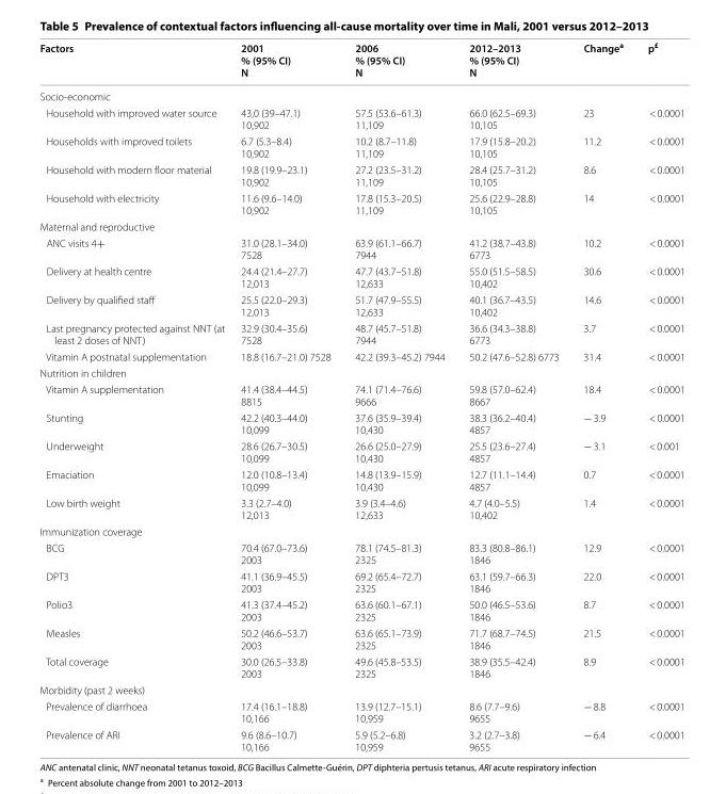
<table><thead><tr><td>Factors</td><td>2001 % (95% CI) N</td><td>2006 % (95% CI) N</td><td>2012–2013 % (95% CI) N</td><td>Change<sup>a</sup></td><td>p<sup>£</sup></td></tr></thead><tbody><tr><td colspan="6">Socio-economic</td></tr><tr><td>Household with improved water source</td><td>43,0 (39–47.1) 10,902</td><td>57.5 (53.6–61.3) 11,109</td><td>66.0 (62.5–69.3) 10,105</td><td>23</td><td>&lt; 0.0001</td></tr><tr><td>Households with improved toilets</td><td>6.7 (5.3–8.4) 10,902</td><td>10.2 (8.7–11.8) 11,109</td><td>17.9 (15.8–20.2) 10,105</td><td>11.2</td><td>&lt; 0.0001</td></tr><tr><td>Household with modern floor material</td><td>19.8 (19.9–23.1) 10,902</td><td>27.2 (23.5–31.2) 11,109</td><td>28.4 (25.7–31.2) 10,105</td><td>8.6</td><td>&lt; 0.0001</td></tr><tr><td>Household with electricity</td><td>11.6 (9.6–14.0) 10,902</td><td>17.8 (15.3–20.5) 11,109</td><td>25.6 (22.9–28.8) 10,105</td><td>14</td><td>&lt; 0.0001</td></tr><tr><td colspan="6">Maternal and reproductive</td></tr><tr><td>ANC visits 4+</td><td>31.0 (28.1–34.0) 7528</td><td>63.9 (61.1–66.7) 7944</td><td>41.2 (38.7–43.8) 6773</td><td>10.2</td><td>&lt; 0.0001</td></tr><tr><td>Delivery at health centre</td><td>24.4 (21.4–27.7) 12,013</td><td>47.7 (43.7–51.8) 12,633</td><td>55.0 (51.5–58.5) 10,402</td><td>30.6</td><td>&lt; 0.0001</td></tr><tr><td>Delivery by qualified staff</td><td>25.5 (22.0–29.3) 12,013</td><td>51.7 (47.9–55.5) 12,633</td><td>40.1 (36.7–43.5) 10,402</td><td>14.6</td><td>&lt; 0.0001</td></tr><tr><td>Last pregnancy protected against NNT (at least 2 doses of NNT)</td><td>32.9 (30.4–35.6) 7528</td><td>48.7 (45.7–51.8) 7944</td><td>36.6 (34.3–38.8) 6773</td><td>3.7</td><td>&lt; 0.0001</td></tr><tr><td>Vitamin A postnatal supplementation</td><td>18.8 (16.7–21.0) 7528</td><td>42.2 (39.3–45.2) 7944</td><td>50.2 (47.6–52.8) 6773</td><td>31.4</td><td>&lt; 0.0001</td></tr><tr><td colspan="6">Nutrition in children</td></tr><tr><td>Vitamin A supplementation</td><td>41.4 (38.4–44.5) 8815</td><td>74.1 (71.4–76.6) 9666</td><td>59.8 (57.0–62.4) 8667</td><td>18.4</td><td>&lt; 0.0001</td></tr><tr><td>Stunting</td><td>42.2 (40.3–44.0) 10,099</td><td>37.6 (35.9–39.4) 10,430</td><td>38.3 (36.2–40.4) 4857</td><td>− 3.9</td><td>&lt; 0.0001</td></tr><tr><td>Underweight</td><td>28.6 (26.7–30.5) 10,099</td><td>26.6 (25.0–27.9) 10,430</td><td>25.5 (23.6–27.4) 4857</td><td>− 3.1</td><td>&lt; 0.001</td></tr><tr><td>Emaciation</td><td>12.0 (10.8–13.4) 10,099</td><td>14.8 (13.9–15.9) 10,430</td><td>12.7 (11.1–14.4) 4857</td><td>0.7</td><td>&lt; 0.0001</td></tr><tr><td>Low birth weight</td><td>3.3 (2.7–4.0) 12,013</td><td>3.9 (3.4–4.6) 12,633</td><td>4.7 (4.0–5.5) 10,402</td><td>1.4</td><td>&lt; 0.0001</td></tr><tr><td colspan="6">Immunization coverage</td></tr><tr><td>BCG</td><td>70.4 (67.0–73.6) 2003</td><td>78.1 (74.5–81.3) 2325</td><td>83.3 (80.8–86.1) 1846</td><td>12.9</td><td>&lt; 0.0001</td></tr><tr><td>DPT3</td><td>41.1 (36.9–45.5) 2003</td><td>69.2 (65.4–72.7) 2325</td><td>63.1 (59.7–66.3) 1846</td><td>22.0</td><td>&lt; 0.0001</td></tr><tr><td>Polio3</td><td>41.3 (37.4–45.2) 2003</td><td>63.6 (60.1–67.1) 2325</td><td>50.0 (46.5–53.6) 1846</td><td>8.7</td><td>&lt; 0.0001</td></tr><tr><td>Measles</td><td>50.2 (46.6–53.7) 2003</td><td>63.6 (65.1–73.9) 2325</td><td>71.7 (68.7–74.5) 1846</td><td>21.5</td><td>&lt; 0.0001</td></tr><tr><td>Total coverage</td><td>30.0 (26.5–33.8) 2003</td><td>49.6 (45.8–53.5) 2325</td><td>38.9 (35.5–42.4) 1846</td><td>8.9</td><td>&lt; 0.0001</td></tr><tr><td colspan="6">Morbidity (past 2 weeks)</td></tr><tr><td>Prevalence of diarrhoea</td><td>17.4 (16.1–18.8) 10,166</td><td>13.9 (12.7–15.1) 10,959</td><td>8.6 (7.7–9.6) 9655</td><td>− 8.8</td><td>&lt; 0.0001</td></tr><tr><td>Prevalence of ARI</td><td>9.6 (8.6–10.7) 10,166</td><td>5.9 (5.2–6.8) 10,959</td><td>3.2 (2.7–3.8) 9655</td><td>− 6.4</td><td>&lt; 0.0001</td></tr></tbody></table>